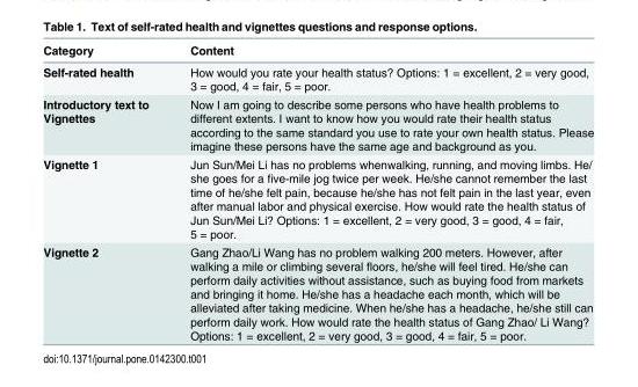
<table><thead><tr><td>Category</td><td>Content</td></tr></thead><tbody><tr><td>Self-rated health</td><td>How would you rate your health status? Options: 1 = excellent, 2 = very good, 3 = good, 4 = fair, 5 = poor.</td></tr><tr><td>Introductory text to Vignettes</td><td>Now I am going to describe some persons who have health problems to different extents. I want to know how you would rate their health status according to the same standard you use to rate your own health status. Please imagine these persons have the same age and background as you.</td></tr><tr><td>Vignette 1</td><td>Jun Sun/Mei Li has no problems whenwalking, running, and moving limbs. He/ she goes for a five-mile jog twice per week. He/she cannot remember the last time of he/she felt pain, because he/she has not felt pain in the last year, even after manual labor and physical exercise. How would rate the health status of Jun Sun/Mei Li? Options: 1 = excellent, 2 = very good, 3 = good, 4 = fair, 5 = poor.</td></tr><tr><td>Vignette 2</td><td>Gang Zhao/Li Wang has no problem walking 200 meters. However, after walking a mile or climbing several floors, he/she will feel tired. He/she can perform daily activities without assistance, such as buying food from markets and bringing it home. He/she has a headache each month, which will be alleviated after taking medicine. When he/she has a headache, he/she still can perform daily work. How would rate the health status of Gang Zhao/ Li Wang? Options: 1 = excellent, 2 = very good, 3 = good, 4 = fair, 5 = poor.</td></tr></tbody></table>